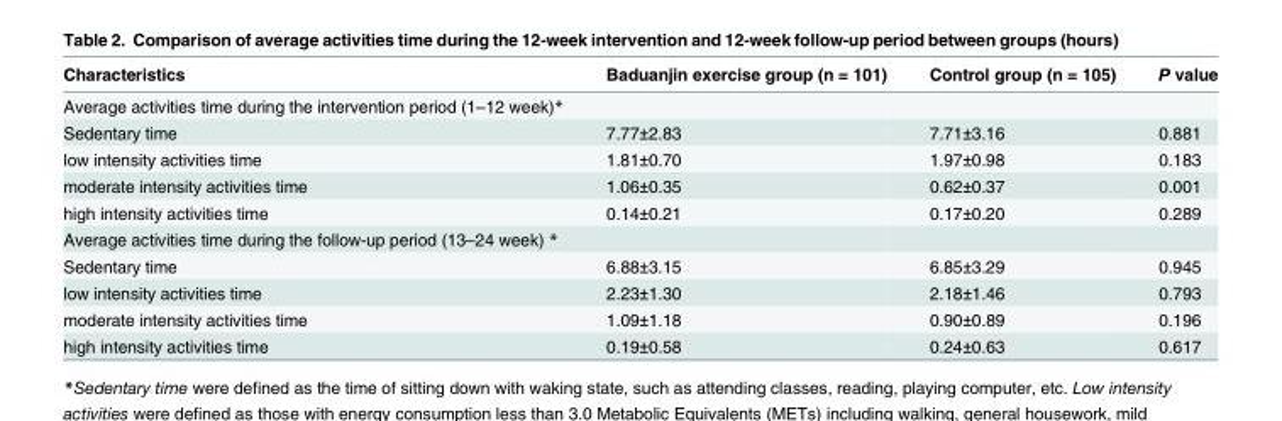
<table><thead><tr><td>Characteristics</td><td>Baduanjin exercise group (n = 101)</td><td>Control group (n = 105)</td><td>P value</td></tr></thead><tbody><tr><td colspan="4">Average activities time during the intervention period (1–12 week)*</td></tr><tr><td>Sedentary time</td><td>7.77±2.83</td><td>7.71±3.16</td><td>0.881</td></tr><tr><td>low intensity activities time</td><td>1.81±0.70</td><td>1.97±0.98</td><td>0.183</td></tr><tr><td>moderate intensity activities time</td><td>1.06±0.35</td><td>0.62±0.37</td><td>0.001</td></tr><tr><td>high intensity activities time</td><td>0.14±0.21</td><td>0.17±0.20</td><td>0.289</td></tr><tr><td colspan="4">Average activities time during the follow-up period (13–24 week) *</td></tr><tr><td>Sedentary time</td><td>6.88±3.15</td><td>6.85±3.29</td><td>0.945</td></tr><tr><td>low intensity activities time</td><td>2.23±1.30</td><td>2.18±1.46</td><td>0.793</td></tr><tr><td>moderate intensity activities time</td><td>1.09±1.18</td><td>0.90±0.89</td><td>0.196</td></tr><tr><td>high intensity activities time</td><td>0.19±0.58</td><td>0.24±0.63</td><td>0.617</td></tr></tbody></table>